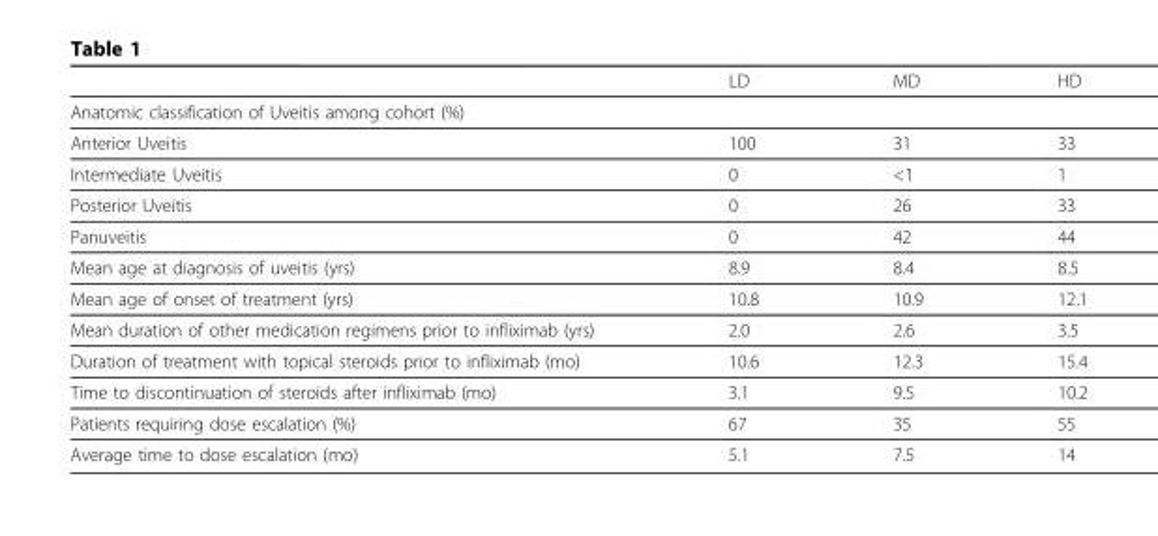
<table><thead><tr><td></td><td>LD</td><td>MD</td><td>HD</td></tr></thead><tbody><tr><td colspan="4">Anatomic classification of Uveitis among cohort (%)</td></tr><tr><td>Anterior Uveitis</td><td>100</td><td>31</td><td>33</td></tr><tr><td>Intermediate Uveitis</td><td>0</td><td>&lt;1</td><td>1</td></tr><tr><td>Posterior Uveitis</td><td>0</td><td>26</td><td>33</td></tr><tr><td>Panuveitis</td><td>0</td><td>42</td><td>44</td></tr><tr><td>Mean age at diagnosis of uveitis (yrs)</td><td>8.9</td><td>8.4</td><td>8.5</td></tr><tr><td>Mean age of onset of treatment (yrs)</td><td>10.8</td><td>10.9</td><td>12.1</td></tr><tr><td>Mean duration of other medication regimens prior to infliximab (yrs)</td><td>2.0</td><td>2.6</td><td>3.5</td></tr><tr><td>Duration of treatment with topical steroids prior to infliximab (mo)</td><td>10.6</td><td>12.3</td><td>15.4</td></tr><tr><td>Time to discontinuation of steroids after infliximab (mo)</td><td>3.1</td><td>9.5</td><td>10.2</td></tr><tr><td>Patients requiring dose escalation (%)</td><td>67</td><td>35</td><td>55</td></tr><tr><td>Average time to dose escalation (mo)</td><td>5.1</td><td>7.5</td><td>14</td></tr></tbody></table>